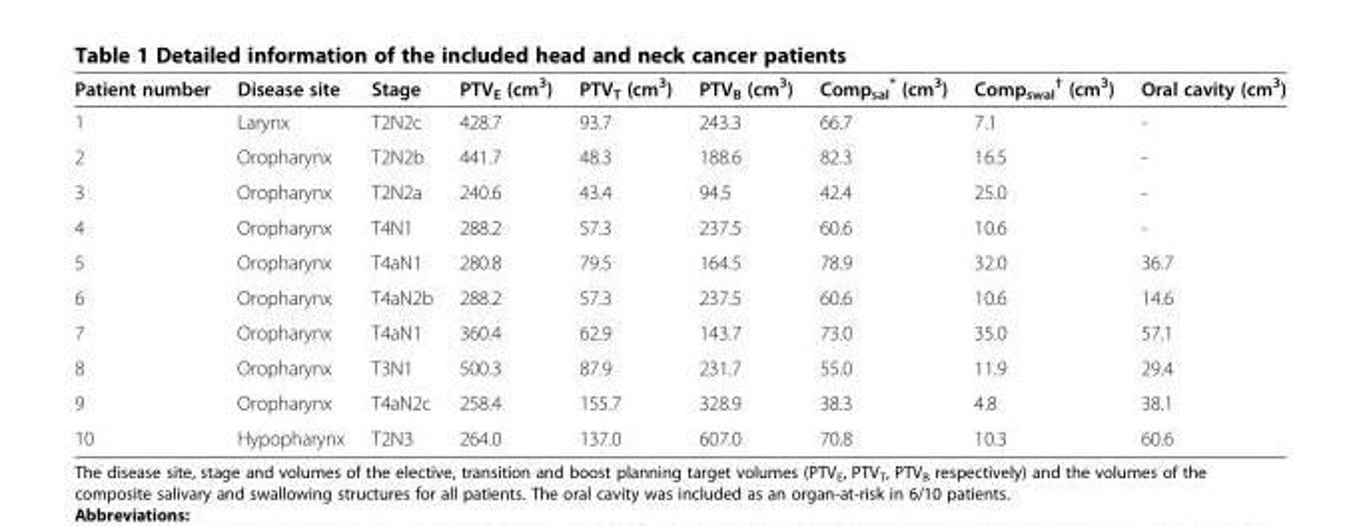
<table><thead><tr><td>Patient number</td><td>Disease site</td><td>Stage</td><td>PTV<sub>E</sub> (cm<sup>3</sup>)</td><td>PTV<sub>T</sub> (cm<sup>3</sup>)</td><td>PTV<sub>B</sub> (cm<sup>3</sup>)</td><td>Comp<sub>sal</sub> * (cm<sup>3</sup>)</td><td>Comp<sub>swal</sub> <sup>†</sup> (cm<sup>3</sup>)</td><td>Oral cavity (cm<sup>3</sup>)</td></tr></thead><tbody><tr><td>1</td><td>Larynx</td><td>T2N2c</td><td>428.7</td><td>93.7</td><td>243.3</td><td>66.7</td><td>7.1</td><td>-</td></tr><tr><td>2</td><td>Oropharynx</td><td>T2N2b</td><td>441.7</td><td>48.3</td><td>188.6</td><td>82.3</td><td>16.5</td><td>-</td></tr><tr><td>3</td><td>Oropharynx</td><td>T2N2a</td><td>240.6</td><td>43.4</td><td>94.5</td><td>42.4</td><td>25.0</td><td>-</td></tr><tr><td>4</td><td>Oropharynx</td><td>T4N1</td><td>288.2</td><td>57.3</td><td>237.5</td><td>60.6</td><td>10.6</td><td>-</td></tr><tr><td>5</td><td>Oropharynx</td><td>T4aN1</td><td>280.8</td><td>79.5</td><td>164.5</td><td>78.9</td><td>32.0</td><td>36.7</td></tr><tr><td>6</td><td>Oropharynx</td><td>T4aN2b</td><td>288.2</td><td>57.3</td><td>237.5</td><td>60.6</td><td>10.6</td><td>14.6</td></tr><tr><td>7</td><td>Oropharynx</td><td>T4aN1</td><td>360.4</td><td>62.9</td><td>143.7</td><td>73.0</td><td>35.0</td><td>57.1</td></tr><tr><td>8</td><td>Oropharynx</td><td>T3N1</td><td>500.3</td><td>87.9</td><td>231.7</td><td>55.0</td><td>11.9</td><td>29.4</td></tr><tr><td>9</td><td>Oropharynx</td><td>T4aN2c</td><td>258.4</td><td>155.7</td><td>328.9</td><td>38.3</td><td>4.8</td><td>38.1</td></tr><tr><td>10</td><td>Hypopharynx</td><td>T2N3</td><td>264.0</td><td>137.0</td><td>607.0</td><td>70.8</td><td>10.3</td><td>60.6</td></tr></tbody></table>